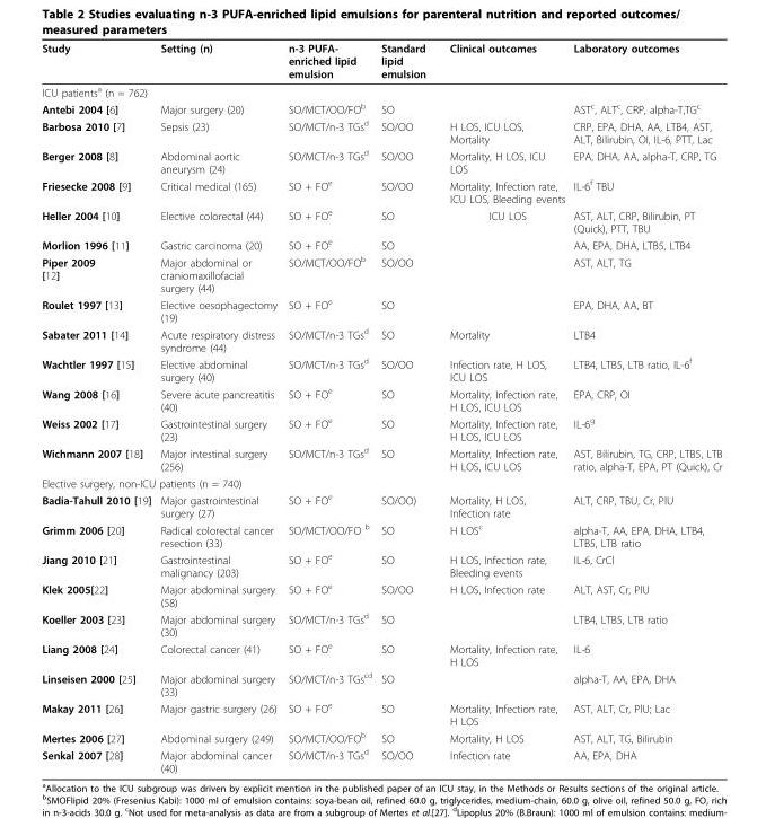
<table><thead><tr><td>Study</td><td>Setting (n)</td><td>n-3 PUFA- enriched lipid emulsion</td><td>Standard lipid emulsion</td><td>Clinical outcomes</td><td>Laboratory outcomes</td></tr></thead><tbody><tr><td colspan="6">ICU patients<sup>a</sup> (n = 762)</td></tr><tr><td>Antebi 2004 [6]</td><td>Major surgery (20)</td><td>SO/MCT/OO/FO<sup>b</sup></td><td>SO</td><td></td><td>AST<sup>c</sup>, ALT<sup>c</sup>, CRP, alpha-T,TG<sup>c</sup></td></tr><tr><td>Barbosa 2010 [7]</td><td>Sepsis (23)</td><td>SO/MCT/n-3 TGs<sup>d</sup></td><td>SO/OO</td><td>H LOS, ICU LOS, Mortality</td><td>CRP, EPA, DHA, AA, LTB4, AST, ALT, Bilirubin, OI, IL-6, PTT, Lac</td></tr><tr><td>Berger 2008 [8]</td><td>Abdominal aortic aneurysm (24)</td><td>SO/MCT/n-3 TGs<sup>d</sup></td><td>SO/OO</td><td>Mortality, H LOS, ICU LOS</td><td>EPA, DHA, AA, alpha-T, CRP, TG</td></tr><tr><td>Friesecke 2008 [9]</td><td>Critical medical (165)</td><td>SO + FO<sup>e</sup></td><td>SO/OO</td><td>Mortality, Infection rate, ICU LOS, Bleeding events</td><td>IL-6<sup>f</sup> TBU</td></tr><tr><td>Heller 2004 [10]</td><td>Elective colorectal (44)</td><td>SO + FO<sup>e</sup></td><td>SO</td><td>ICU LOS</td><td>AST, ALT, CRP, Bilirubin, PT (Quick), PTT, TBU</td></tr><tr><td>Morlion 1996 [11]</td><td>Gastric carcinoma (20)</td><td>SO + FO<sup>e</sup></td><td>SO</td><td></td><td>AA, EPA, DHA, LTB5, LTB4</td></tr><tr><td>Piper 2009 [12]</td><td>Major abdominal or craniomaxillofacial surgery (44)</td><td>SO/MCT/OO/FO<sup>b</sup></td><td>SO/OO</td><td></td><td>AST, ALT, TG</td></tr><tr><td>Roulet 1997 [13]</td><td>Elective oesophagectomy (19)</td><td>SO + FO<sup>e</sup></td><td>SO</td><td></td><td>EPA, DHA, AA, BT</td></tr><tr><td>Sabater 2011 [14]</td><td>Acute respiratory distress syndrome (44)</td><td>SO/MCT/n-3 TGs<sup>d</sup></td><td>SO</td><td>Mortality</td><td>LTB4</td></tr><tr><td>Wachtler 1997 [15]</td><td>Elective abdominal surgery (40)</td><td>SO/MCT/n-3 TGs<sup>d</sup></td><td>SO/OO</td><td>Infection rate, H LOS, ICU LOS</td><td>LTB4, LTB5, LTB ratio, IL-6<sup>f</sup></td></tr><tr><td>Wang 2008 [16]</td><td>Severe acute pancreatitis (40)</td><td>SO + FO<sup>e</sup></td><td>SO</td><td>Mortality, Infection rate, H LOS, ICU LOS</td><td>EPA, CRP, OI</td></tr><tr><td>Weiss 2002 [17]</td><td>Gastrointestinal surgery (23)</td><td>SO + FO<sup>e</sup></td><td>SO</td><td>Mortality, Infection rate, H LOS, ICU LOS</td><td>IL-6<sup>g</sup></td></tr><tr><td>Wichmann 2007 [18]</td><td>Major intestinal surgery (256)</td><td>SO/MCT/n-3 TGs<sup>d</sup></td><td>SO</td><td>Mortality, Infection rate, H LOS, ICU LOS</td><td>AST, Bilirubin, TG, CRP, LTB5, LTB ratio, alpha-T, EPA, PT (Quick), Cr</td></tr><tr><td colspan="6">Elective surgery, non-ICU patients (n = 740)</td></tr><tr><td>Badia-Tahull 2010 [19]</td><td>Major gastrointestinal surgery (27)</td><td>SO + FO<sup>e</sup></td><td>SO/OO)</td><td>Mortality, H LOS, Infection rate</td><td>ALT, CRP, TBU, Cr, PlU</td></tr><tr><td>Grimm 2006 [20]</td><td>Radical colorectal cancer resection (33)</td><td>SO/MCT/OO/FO <sup>b</sup></td><td>SO</td><td>H LOS<sup>c</sup></td><td>alpha-T, AA, EPA, DHA, LTB4, LTB5, LTB ratio</td></tr><tr><td>Jiang 2010 [21]</td><td>Gastrointestinal malignancy (203)</td><td>SO + FO<sup>e</sup></td><td>SO</td><td>H LOS, Infection rate, Bleeding events</td><td>IL-6, CrCl</td></tr><tr><td>Klek 2005[22]</td><td>Major abdominal surgery (58)</td><td>SO + FO<sup>e</sup></td><td>SO/OO</td><td>H LOS, Infection rate</td><td>ALT, AST, Cr, PlU</td></tr><tr><td>Koeller 2003 [23]</td><td>Major abdominal surgery (30)</td><td>SO/MCT/n-3 TGs<sup>d</sup></td><td>SO</td><td></td><td>LTB4, LTB5, LTB ratio</td></tr><tr><td>Liang 2008 [24]</td><td>Colorectal cancer (41)</td><td>SO + FO<sup>e</sup></td><td>SO</td><td>Mortality, Infection rate, H LOS</td><td>IL-6</td></tr><tr><td>Linseisen 2000 [25]</td><td>Major abdominal surgery (33)</td><td>SO/MCT/n-3 TGs<sup>cd</sup></td><td>SO</td><td></td><td>alpha-T, AA, EPA, DHA</td></tr><tr><td>Makay 2011 [26]</td><td>Major gastric surgery (26)</td><td>SO + FO<sup>e</sup></td><td>SO</td><td>Mortality, Infection rate, H LOS</td><td>AST, ALT, Cr, PlU; Lac</td></tr><tr><td>Mertes 2006 [27]</td><td>Abdominal surgery (249)</td><td>SO/MCT/OO/FO<sup>b</sup></td><td>SO</td><td>Mortality, H LOS</td><td>AST, ALT, TG, Bilirubin</td></tr><tr><td>Senkal 2007 [28]</td><td>Major abdominal cancer (40)</td><td>SO/MCT/n-3 TGs<sup>d</sup></td><td>SO/OO</td><td>Infection rate</td><td>AA, EPA, DHA</td></tr></tbody></table>